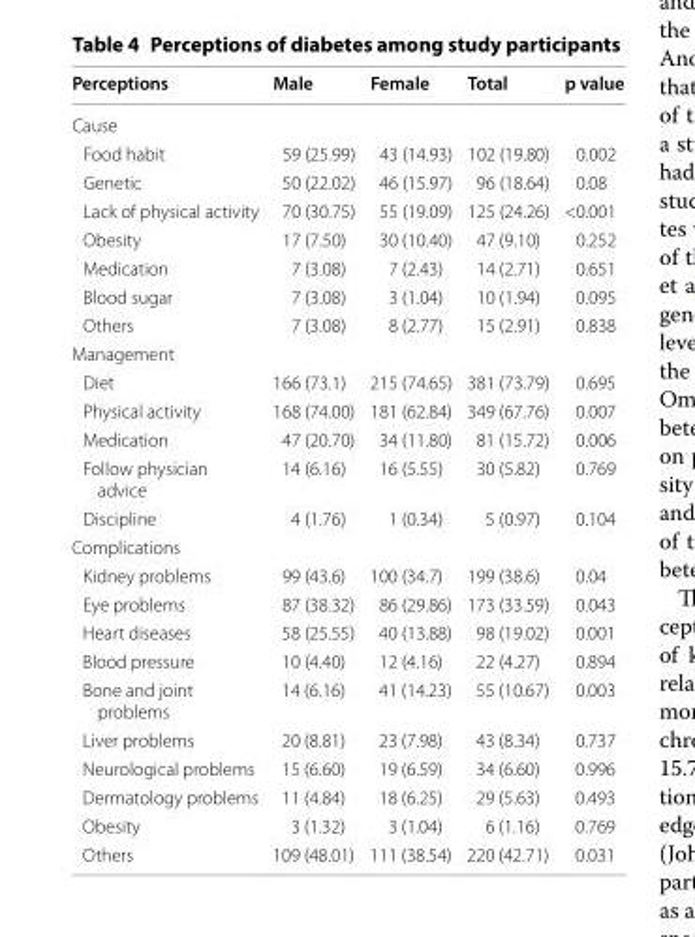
<table><thead><tr><td>Perceptions</td><td>Male</td><td>Female</td><td>Total</td><td>p value</td></tr></thead><tbody><tr><td colspan="5">Cause</td></tr><tr><td>Food habit</td><td>59 (25.99)</td><td>43 (14.93)</td><td>102 (19.80)</td><td>0.002</td></tr><tr><td>Genetic</td><td>50 (22.02)</td><td>46 (15.97)</td><td>96 (18.64)</td><td>0.08</td></tr><tr><td>Lack of physical activity</td><td>70 (30.75)</td><td>55 (19.09)</td><td>125 (24.26)</td><td>&lt;0.001</td></tr><tr><td>Obesity</td><td>17 (7.50)</td><td>30 (10.40)</td><td>47 (9.10)</td><td>0.252</td></tr><tr><td>Medication</td><td>7 (3.08)</td><td>7 (2.43)</td><td>14 (2.71)</td><td>0.651</td></tr><tr><td>Blood sugar</td><td>7 (3.08)</td><td>3 (1.04)</td><td>10 (1.94)</td><td>0.095</td></tr><tr><td>Others</td><td>7 (3.08)</td><td>8 (2.77)</td><td>15 (2.91)</td><td>0.838</td></tr><tr><td colspan="5">Management</td></tr><tr><td>Diet</td><td>166 (73.1)</td><td>215 (74.65)</td><td>381 (73.79)</td><td>0.695</td></tr><tr><td>Physical activity</td><td>168 (74.00)</td><td>181 (62.84)</td><td>349 (67.76)</td><td>0.007</td></tr><tr><td>Medication</td><td>47 (20.70)</td><td>34 (11.80)</td><td>81 (15.72)</td><td>0.006</td></tr><tr><td>Follow physician advice</td><td>14 (6.16)</td><td>16 (5.55)</td><td>30 (5.82)</td><td>0.769</td></tr><tr><td>Discipline</td><td>4 (1.76)</td><td>1 (0.34)</td><td>5 (0.97)</td><td>0.104</td></tr><tr><td colspan="5">Complications</td></tr><tr><td>Kidney problems</td><td>99 (43.6)</td><td>100 (34.7)</td><td>199 (38.6)</td><td>0.04</td></tr><tr><td>Eye problems</td><td>87 (38.32)</td><td>86 (29.86)</td><td>173 (33.59)</td><td>0.043</td></tr><tr><td>Heart diseases</td><td>58 (25.55)</td><td>40 (13.88)</td><td>98 (19.02)</td><td>0.001</td></tr><tr><td>Blood pressure</td><td>10 (4.40)</td><td>12 (4.16)</td><td>22 (4.27)</td><td>0.894</td></tr><tr><td>Bone and joint problems</td><td>14 (6.16)</td><td>41 (14.23)</td><td>55 (10.67)</td><td>0.003</td></tr><tr><td>Liver problems</td><td>20 (8.81)</td><td>23 (7.98)</td><td>43 (8.34)</td><td>0.737</td></tr><tr><td>Neurological problems</td><td>15 (6.60)</td><td>19 (6.59)</td><td>34 (6.60)</td><td>0.996</td></tr><tr><td>Dermatology problems</td><td>11 (4.84)</td><td>18 (6.25)</td><td>29 (5.63)</td><td>0.493</td></tr><tr><td>Obesity</td><td>3 (1.32)</td><td>3 (1.04)</td><td>6 (1.16)</td><td>0.769</td></tr><tr><td>Others</td><td>109 (48.01)</td><td>111 (38.54)</td><td>220 (42.71)</td><td>0.031</td></tr></tbody></table>